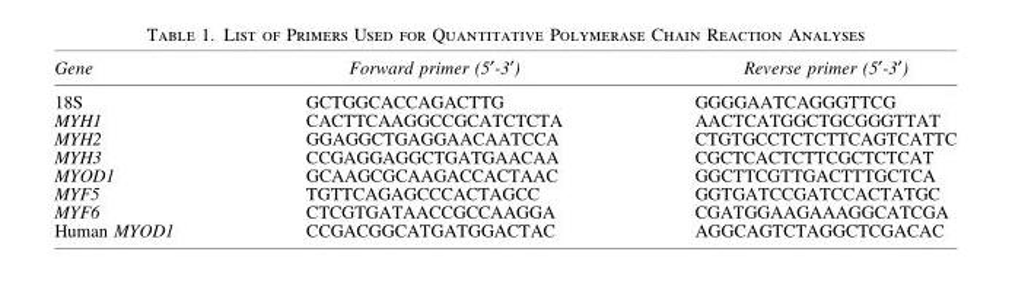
<table><thead><tr><td>Gene</td><td>Forward primer (5¢-3¢)</td><td>Reverse primer (5¢-3¢)</td></tr></thead><tbody><tr><td>18S</td><td>GCTGGCACCAGACTTG</td><td>GGGGAATCAGGGTTCG</td></tr><tr><td>MYH1</td><td>CACTTCAAGGCCGCATCTCTA</td><td>AACTCATGGCTGCGGGTTAT</td></tr><tr><td>MYH2</td><td>GGAGGCTGAGGAACAATCCA</td><td>CTGTGCCTCTCTTCAGTCATTC</td></tr><tr><td>MYH3</td><td>CCGAGGAGGCTGATGAACAA</td><td>CGCTCACTCTTCGCTCTCAT</td></tr><tr><td>MYOD1</td><td>GCAAGCGCAAGACCACTAAC</td><td>GGCTTCGTTGACTTTGCTCA</td></tr><tr><td>MYF5</td><td>TGTTCAGAGCCCACTAGCC</td><td>GGTGATCCGATCCACTATGC</td></tr><tr><td>MYF6</td><td>CTCGTGATAACCGCCAAGGA</td><td>CGATGGAAGAAAGGCATCGA</td></tr><tr><td>Human MYOD1</td><td>CCGACGGCATGATGGACTAC</td><td>AGGCAGTCTAGGCTCGACAC</td></tr></tbody></table>